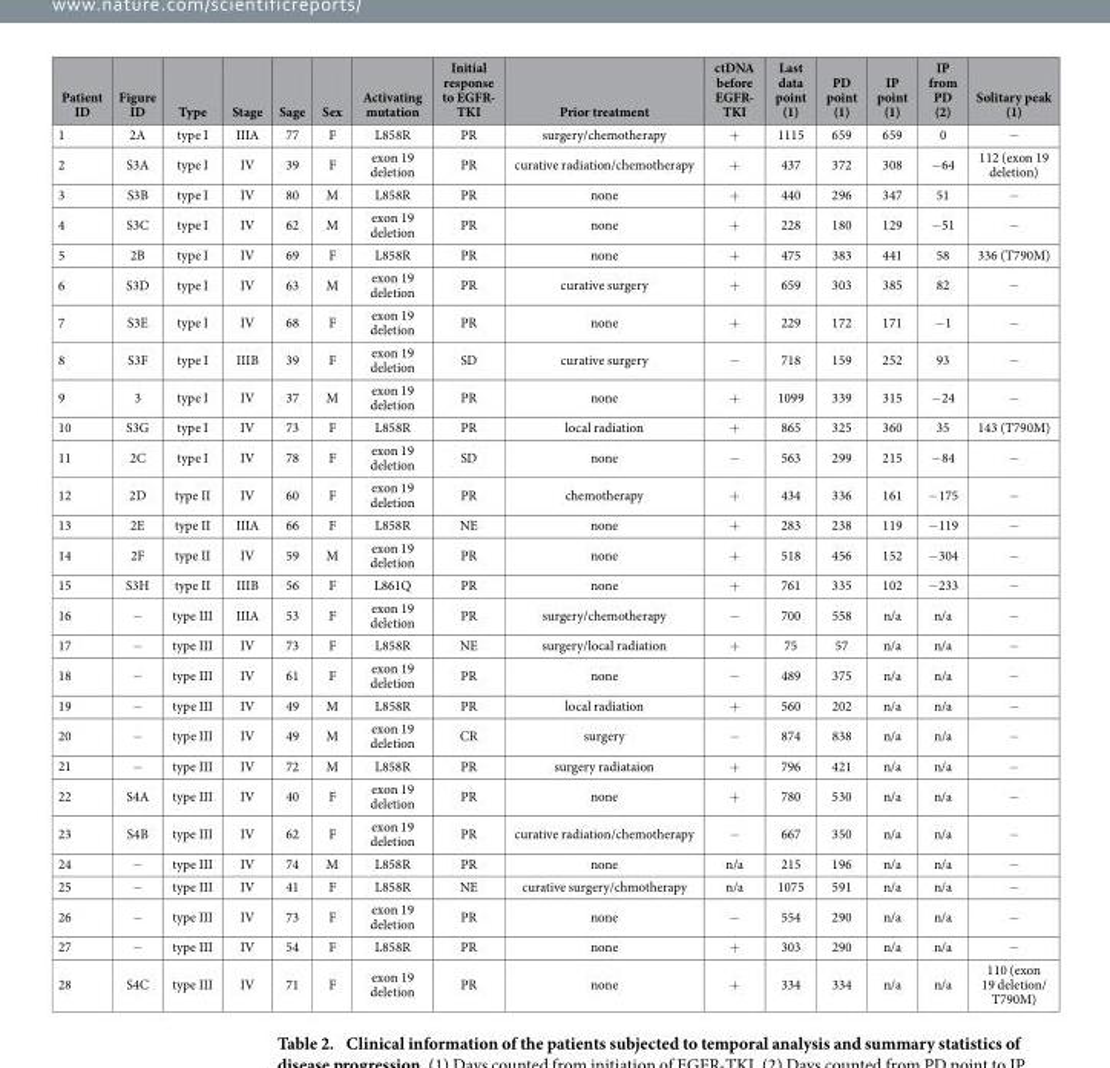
<table><thead><tr><td>Patient ID</td><td>Figure ID</td><td>Type</td><td>Stage</td><td>Sage</td><td>Sex</td><td>Activating mutation</td><td>Initial response to EGFR- TKI</td><td>Prior treatment</td><td>ctDNA before EGFR- TKI</td><td>Last data point (1)</td><td>PD point (1)</td><td>IP point (1)</td><td>IP from PD (2)</td><td>Solitary peak (1)</td></tr></thead><tbody><tr><td>1</td><td>2A</td><td>type I</td><td>IIIA</td><td>77</td><td>F</td><td>L858R</td><td>PR</td><td>surgery/chemotherapy</td><td>+</td><td>1115</td><td>659</td><td>659</td><td>0</td><td>−</td></tr><tr><td>2</td><td>S3A</td><td>type I</td><td>IV</td><td>39</td><td>F</td><td>exon 19 deletion</td><td>PR</td><td>curative radiation/chemotherapy</td><td>+</td><td>437</td><td>372</td><td>308</td><td>−64</td><td>112 (exon 19 deletion)</td></tr><tr><td>3</td><td>S3B</td><td>type I</td><td>IV</td><td>80</td><td>M</td><td>L858R</td><td>PR</td><td>none</td><td>+</td><td>440</td><td>296</td><td>347</td><td>51</td><td>−</td></tr><tr><td>4</td><td>S3C</td><td>type I</td><td>IV</td><td>62</td><td>M</td><td>exon 19 deletion</td><td>PR</td><td>none</td><td>+</td><td>228</td><td>180</td><td>129</td><td>−51</td><td>−</td></tr><tr><td>5</td><td>2B</td><td>type I</td><td>IV</td><td>69</td><td>F</td><td>L858R</td><td>PR</td><td>none</td><td>+</td><td>475</td><td>383</td><td>441</td><td>58</td><td>336 (T790M)</td></tr><tr><td>6</td><td>S3D</td><td>type I</td><td>IV</td><td>63</td><td>M</td><td>exon 19 deletion</td><td>PR</td><td>curative surgery</td><td>+</td><td>659</td><td>303</td><td>385</td><td>82</td><td>−</td></tr><tr><td>7</td><td>S3E</td><td>type I</td><td>IV</td><td>68</td><td>F</td><td>exon 19 deletion</td><td>PR</td><td>none</td><td>+</td><td>229</td><td>172</td><td>171</td><td>−1</td><td>−</td></tr><tr><td>8</td><td>S3F</td><td>type I</td><td>IIIB</td><td>39</td><td>F</td><td>exon 19 deletion</td><td>SD</td><td>curative surgery</td><td>−</td><td>718</td><td>159</td><td>252</td><td>93</td><td>−</td></tr><tr><td>9</td><td>3</td><td>type I</td><td>IV</td><td>37</td><td>M</td><td>exon 19 deletion</td><td>PR</td><td>none</td><td>+</td><td>1099</td><td>339</td><td>315</td><td>−24</td><td>−</td></tr><tr><td>10</td><td>S3G</td><td>type I</td><td>IV</td><td>73</td><td>F</td><td>L858R</td><td>PR</td><td>local radiation</td><td>+</td><td>865</td><td>325</td><td>360</td><td>35</td><td>143 (T790M)</td></tr><tr><td>11</td><td>2C</td><td>type I</td><td>IV</td><td>78</td><td>F</td><td>exon 19 deletion</td><td>SD</td><td>none</td><td>−</td><td>563</td><td>299</td><td>215</td><td>−84</td><td>−</td></tr><tr><td>12</td><td>2D</td><td>type II</td><td>IV</td><td>60</td><td>F</td><td>exon 19 deletion</td><td>PR</td><td>chemotherapy</td><td>+</td><td>434</td><td>336</td><td>161</td><td>−175</td><td>−</td></tr><tr><td>13</td><td>2E</td><td>type II</td><td>IIIA</td><td>66</td><td>F</td><td>L858R</td><td>NE</td><td>none</td><td>+</td><td>283</td><td>238</td><td>119</td><td>−119</td><td>−</td></tr><tr><td>14</td><td>2F</td><td>type II</td><td>IV</td><td>59</td><td>M</td><td>exon 19 deletion</td><td>PR</td><td>none</td><td>+</td><td>518</td><td>456</td><td>152</td><td>−304</td><td>−</td></tr><tr><td>15</td><td>S3H</td><td>type II</td><td>IIIB</td><td>56</td><td>F</td><td>L861Q</td><td>PR</td><td>none</td><td>+</td><td>761</td><td>335</td><td>102</td><td>−233</td><td>−</td></tr><tr><td>16</td><td>−</td><td>type III</td><td>IIIA</td><td>53</td><td>F</td><td>exon 19 deletion</td><td>PR</td><td>surgery/chemotherapy</td><td>−</td><td>700</td><td>558</td><td>n/a</td><td>n/a</td><td>−</td></tr><tr><td>17</td><td>−</td><td>type III</td><td>IV</td><td>73</td><td>F</td><td>L858R</td><td>NE</td><td>surgery/local radiation</td><td>+</td><td>75</td><td>57</td><td>n/a</td><td>n/a</td><td>−</td></tr><tr><td>18</td><td>−</td><td>type III</td><td>IV</td><td>61</td><td>F</td><td>exon 19 deletion</td><td>PR</td><td>none</td><td>−</td><td>489</td><td>375</td><td>n/a</td><td>n/a</td><td>−</td></tr><tr><td>19</td><td>−</td><td>type III</td><td>IV</td><td>49</td><td>M</td><td>L858R</td><td>PR</td><td>local radiation</td><td>+</td><td>560</td><td>202</td><td>n/a</td><td>n/a</td><td>−</td></tr><tr><td>20</td><td>−</td><td>type III</td><td>IV</td><td>49</td><td>M</td><td>exon 19 deletion</td><td>CR</td><td>surgery</td><td>−</td><td>874</td><td>838</td><td>n/a</td><td>n/a</td><td>−</td></tr><tr><td>21</td><td>−</td><td>type III</td><td>IV</td><td>72</td><td>M</td><td>L858R</td><td>PR</td><td>surgery radiataion</td><td>+</td><td>796</td><td>421</td><td>n/a</td><td>n/a</td><td>−</td></tr><tr><td>22</td><td>S4A</td><td>type III</td><td>IV</td><td>40</td><td>F</td><td>exon 19 deletion</td><td>PR</td><td>none</td><td>+</td><td>780</td><td>530</td><td>n/a</td><td>n/a</td><td>−</td></tr><tr><td>23</td><td>S4B</td><td>type III</td><td>IV</td><td>62</td><td>F</td><td>exon 19 deletion</td><td>PR</td><td>curative radiation/chemotherapy</td><td>−</td><td>667</td><td>350</td><td>n/a</td><td>n/a</td><td>−</td></tr><tr><td>24</td><td>−</td><td>type III</td><td>IV</td><td>74</td><td>M</td><td>L858R</td><td>PR</td><td>none</td><td>n/a</td><td>215</td><td>196</td><td>n/a</td><td>n/a</td><td>−</td></tr><tr><td>25</td><td>−</td><td>type III</td><td>IV</td><td>41</td><td>F</td><td>L858R</td><td>NE</td><td>curative surgery/chmotherapy</td><td>n/a</td><td>1075</td><td>591</td><td>n/a</td><td>n/a</td><td>−</td></tr><tr><td>26</td><td>−</td><td>type III</td><td>IV</td><td>73</td><td>F</td><td>exon 19 deletion</td><td>PR</td><td>none</td><td>−</td><td>554</td><td>290</td><td>n/a</td><td>n/a</td><td>−</td></tr><tr><td>27</td><td>−</td><td>type III</td><td>IV</td><td>54</td><td>F</td><td>L858R</td><td>PR</td><td>none</td><td>+</td><td>303</td><td>290</td><td>n/a</td><td>n/a</td><td>−</td></tr><tr><td>28</td><td>S4C</td><td>type III</td><td>IV</td><td>71</td><td>F</td><td>exon 19 deletion</td><td>PR</td><td>none</td><td>+</td><td>334</td><td>334</td><td>n/a</td><td>n/a</td><td>110 (exon 19 deletion/ T790M)</td></tr></tbody></table>